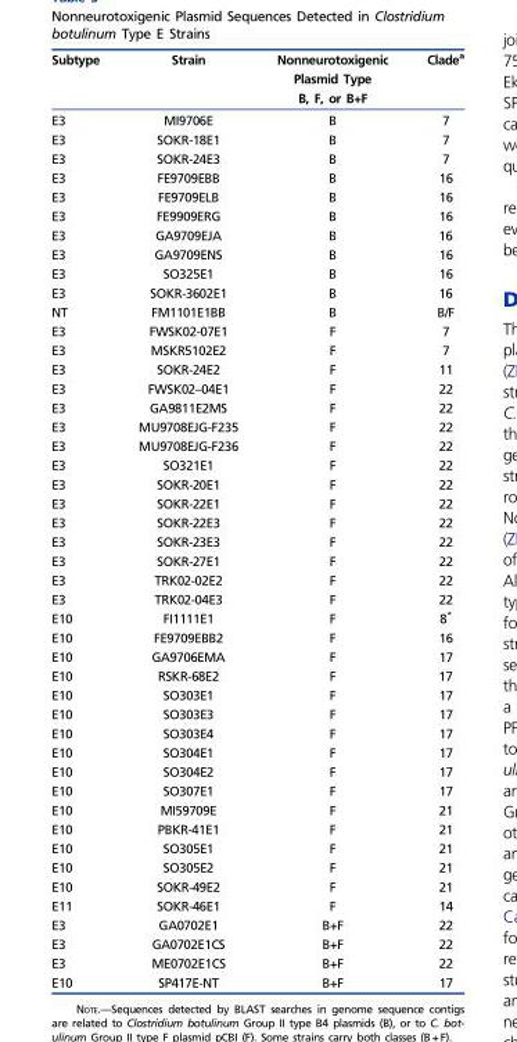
<table><thead><tr><td>Subtype</td><td>Strain</td><td>Nonneurotoxigenic Plasmid Type B, F, or B+F</td><td>Clade<sup>a</sup></td></tr></thead><tbody><tr><td>E3</td><td>MI9706E</td><td>B</td><td>7</td></tr><tr><td>E3</td><td>SOKR-18E1</td><td>B</td><td>7</td></tr><tr><td>E3</td><td>SOKR-24E3</td><td>B</td><td>7</td></tr><tr><td>E3</td><td>FE9709EBB</td><td>B</td><td>16</td></tr><tr><td>E3</td><td>FE9709ELB</td><td>B</td><td>16</td></tr><tr><td>E3</td><td>FE9909ERG</td><td>B</td><td>16</td></tr><tr><td>E3</td><td>GA9709EJA</td><td>B</td><td>16</td></tr><tr><td>E3</td><td>GA9709ENS</td><td>B</td><td>16</td></tr><tr><td>E3</td><td>SO325E1</td><td>B</td><td>16</td></tr><tr><td>E3</td><td>SOKR-3602E1</td><td>B</td><td>16</td></tr><tr><td>NT</td><td>FM1101E1BB</td><td>B</td><td>B/F</td></tr><tr><td>E3</td><td>FWSK02-07E1</td><td>F</td><td>7</td></tr><tr><td>E3</td><td>MSKR5102E2</td><td>F</td><td>7</td></tr><tr><td>E3</td><td>SOKR-24E2</td><td>F</td><td>11</td></tr><tr><td>E3</td><td>FWSK02–04E1</td><td>F</td><td>22</td></tr><tr><td>E3</td><td>GA9811E2MS</td><td>F</td><td>22</td></tr><tr><td>E3</td><td>MU9708EJG-F235</td><td>F</td><td>22</td></tr><tr><td>E3</td><td>MU9708EJG-F236</td><td>F</td><td>22</td></tr><tr><td>E3</td><td>SO321E1</td><td>F</td><td>22</td></tr><tr><td>E3</td><td>SOKR-20E1</td><td>F</td><td>22</td></tr><tr><td>E3</td><td>SOKR-22E1</td><td>F</td><td>22</td></tr><tr><td>E3</td><td>SOKR-22E3</td><td>F</td><td>22</td></tr><tr><td>E3</td><td>SOKR-23E3</td><td>F</td><td>22</td></tr><tr><td>E3</td><td>SOKR-27E1</td><td>F</td><td>22</td></tr><tr><td>E3</td><td>TRK02-02E2</td><td>F</td><td>22</td></tr><tr><td>E3</td><td>TRK02-04E3</td><td>F</td><td>22</td></tr><tr><td>E10</td><td>FI1111E1</td><td>F</td><td>8*</td></tr><tr><td>E10</td><td>FE9709EBB2</td><td>F</td><td>16</td></tr><tr><td>E10</td><td>GA9706EMA</td><td>F</td><td>17</td></tr><tr><td>E10</td><td>RSKR-68E2</td><td>F</td><td>17</td></tr><tr><td>E10</td><td>SO303E1</td><td>F</td><td>17</td></tr><tr><td>E10</td><td>SO303E3</td><td>F</td><td>17</td></tr><tr><td>E10</td><td>SO303E4</td><td>F</td><td>17</td></tr><tr><td>E10</td><td>SO304E1</td><td>F</td><td>17</td></tr><tr><td>E10</td><td>SO304E2</td><td>F</td><td>17</td></tr><tr><td>E10</td><td>SO307E1</td><td>F</td><td>17</td></tr><tr><td>E10</td><td>MI59709E</td><td>F</td><td>21</td></tr><tr><td>E10</td><td>PBKR-41E1</td><td>F</td><td>21</td></tr><tr><td>E10</td><td>SO305E1</td><td>F</td><td>21</td></tr><tr><td>E10</td><td>SO305E2</td><td>F</td><td>21</td></tr><tr><td>E10</td><td>SOKR-49E2</td><td>F</td><td>21</td></tr><tr><td>E11</td><td>SOKR-46E1</td><td>F</td><td>14</td></tr><tr><td>E3</td><td>GA0702E1</td><td>B+F</td><td>22</td></tr><tr><td>E3</td><td>GA0702E1CS</td><td>B+F</td><td>22</td></tr><tr><td>E3</td><td>ME0702E1CS</td><td>B+F</td><td>22</td></tr><tr><td>E10</td><td>SP417E-NT</td><td>B+F</td><td>17</td></tr></tbody></table>